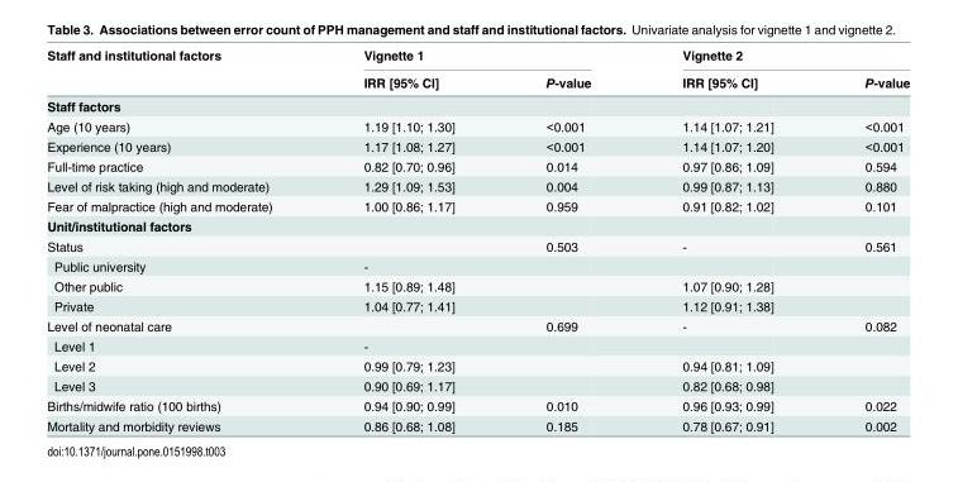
<table><thead><tr><td rowspan="2">Staff and institutional factors</td><td colspan="2">Vignette 1</td><td colspan="2">Vignette 2</td></tr><tr><td>IRR [95% CI]</td><td>P-value</td><td>IRR [95% CI]</td><td>P-value</td></tr></thead><tbody><tr><td colspan="5">Staff factors</td></tr><tr><td>Age (10 years)</td><td>1.19 [1.10; 1.30]</td><td>&lt;0.001</td><td>1.14 [1.07; 1.21]</td><td>&lt;0.001</td></tr><tr><td>Experience (10 years)</td><td>1.17 [1.08; 1.27]</td><td>&lt;0.001</td><td>1.14 [1.07; 1.20]</td><td>&lt;0.001</td></tr><tr><td>Full-time practice</td><td>0.82 [0.70; 0.96]</td><td>0.014</td><td>0.97 [0.86; 1.09]</td><td>0.594</td></tr><tr><td>Level of risk taking (high and moderate)</td><td>1.29 [1.09; 1.53]</td><td>0.004</td><td>0.99 [0.87; 1.13]</td><td>0.880</td></tr><tr><td>Fear of malpractice (high and moderate)</td><td>1.00 [0.86; 1.17]</td><td>0.959</td><td>0.91 [0.82; 1.02]</td><td>0.101</td></tr><tr><td colspan="5">Unit/institutional factors</td></tr><tr><td>Status</td><td></td><td>0.503</td><td>-</td><td>0.561</td></tr><tr><td>Public university</td><td>-</td><td></td><td></td><td></td></tr><tr><td>Other public</td><td>1.15 [0.89; 1.48]</td><td></td><td>1.07 [0.90; 1.28]</td><td></td></tr><tr><td>Private</td><td>1.04 [0.77; 1.41]</td><td></td><td>1.12 [0.91; 1.38]</td><td></td></tr><tr><td>Level of neonatal care</td><td></td><td>0.699</td><td>-</td><td>0.082</td></tr><tr><td>Level 1</td><td>-</td><td></td><td></td><td></td></tr><tr><td>Level 2</td><td>0.99 [0.79; 1.23]</td><td></td><td>0.94 [0.81; 1.09]</td><td></td></tr><tr><td>Level 3</td><td>0.90 [0.69; 1.17]</td><td></td><td>0.82 [0.68; 0.98]</td><td></td></tr><tr><td>Births/midwife ratio (100 births)</td><td>0.94 [0.90; 0.99]</td><td>0.010</td><td>0.96 [0.93; 0.99]</td><td>0.022</td></tr><tr><td>Mortality and morbidity reviews</td><td>0.86 [0.68; 1.08]</td><td>0.185</td><td>0.78 [0.67; 0.91]</td><td>0.002</td></tr></tbody></table>